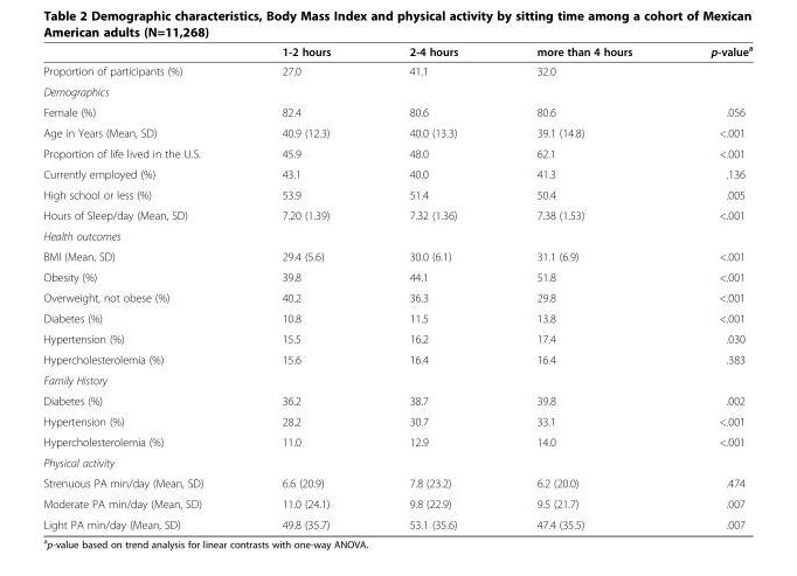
<table><thead><tr><td></td><td>1-2 hours</td><td>2-4 hours</td><td>more than 4 hours</td><td>p-value<sup>a</sup></td></tr></thead><tbody><tr><td>Proportion of participants (%)</td><td>27.0</td><td>41.1</td><td>32.0</td><td></td></tr><tr><td colspan="5">Demographics</td></tr><tr><td>Female (%)</td><td>82.4</td><td>80.6</td><td>80.6</td><td>.056</td></tr><tr><td>Age in Years (Mean, SD)</td><td>40.9 (12.3)</td><td>40.0 (13.3)</td><td>39.1 (14.8)</td><td>&lt;.001</td></tr><tr><td>Proportion of life lived in the U.S.</td><td>45.9</td><td>48.0</td><td>62.1</td><td>&lt;.001</td></tr><tr><td>Currently employed (%)</td><td>43.1</td><td>40.0</td><td>41.3</td><td>.136</td></tr><tr><td>High school or less (%)</td><td>53.9</td><td>51.4</td><td>50.4</td><td>.005</td></tr><tr><td>Hours of Sleep/day (Mean, SD)</td><td>7.20 (1.39)</td><td>7.32 (1.36)</td><td>7.38 (1.53)</td><td>&lt;.001</td></tr><tr><td colspan="5">Health outcomes</td></tr><tr><td>BMI (Mean, SD)</td><td>29.4 (5.6)</td><td>30.0 (6.1)</td><td>31.1 (6.9)</td><td>&lt;.001</td></tr><tr><td>Obesity (%)</td><td>39.8</td><td>44.1</td><td>51.8</td><td>&lt;.001</td></tr><tr><td>Overweight, not obese (%)</td><td>40.2</td><td>36.3</td><td>29.8</td><td>&lt;.001</td></tr><tr><td>Diabetes (%)</td><td>10.8</td><td>11.5</td><td>13.8</td><td>&lt;.001</td></tr><tr><td>Hypertension (%)</td><td>15.5</td><td>16.2</td><td>17.4</td><td>.030</td></tr><tr><td>Hypercholesterolemia (%)</td><td>15.6</td><td>16.4</td><td>16.4</td><td>.383</td></tr><tr><td colspan="5">Family History</td></tr><tr><td>Diabetes (%)</td><td>36.2</td><td>38.7</td><td>39.8</td><td>.002</td></tr><tr><td>Hypertension (%)</td><td>28.2</td><td>30.7</td><td>33.1</td><td>&lt;.001</td></tr><tr><td>Hypercholesterolemia (%)</td><td>11.0</td><td>12.9</td><td>14.0</td><td>&lt;.001</td></tr><tr><td colspan="5">Physical activity</td></tr><tr><td>Strenuous PA min/day (Mean, SD)</td><td>6.6 (20.9)</td><td>7.8 (23.2)</td><td>6.2 (20.0)</td><td>.474</td></tr><tr><td>Moderate PA min/day (Mean, SD)</td><td>11.0 (24.1)</td><td>9.8 (22.9)</td><td>9.5 (21.7)</td><td>.007</td></tr><tr><td>Light PA min/day (Mean, SD)</td><td>49.8 (35.7)</td><td>53.1 (35.6)</td><td>47.4 (35.5)</td><td>.007</td></tr></tbody></table>